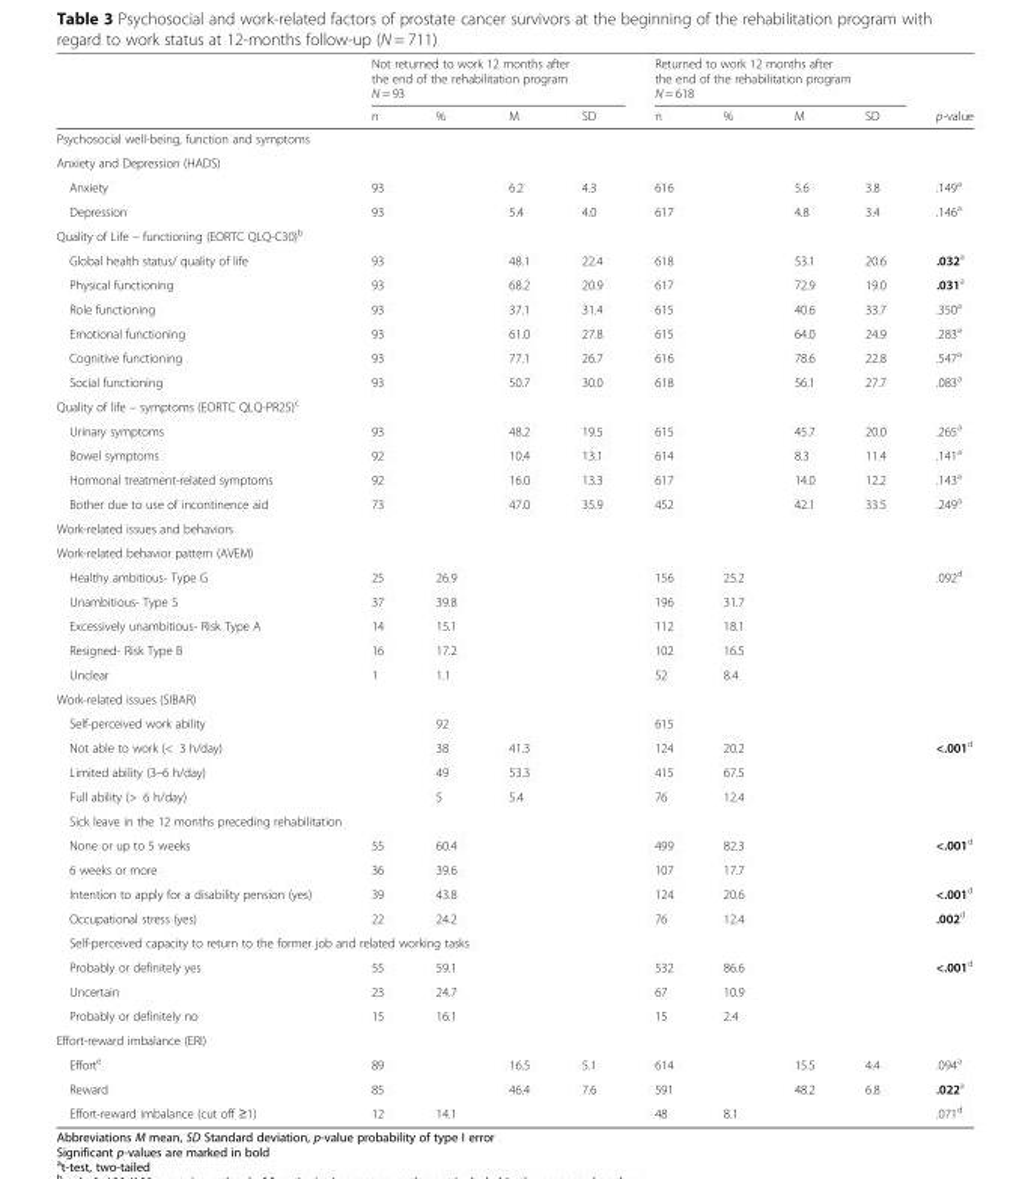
<table><thead><tr><td rowspan="3"></td><td rowspan="2" colspan="4">Not returned to work 12 months after the end of the rehabilitation program N = 93</td><td rowspan="2" colspan="4">Returned to work 12 months after the end of the rehabilitation program N = 618</td><td rowspan="3">p-value</td></tr><tr></tr><tr><td>n</td><td>%</td><td>M</td><td>SD</td><td>n</td><td>%</td><td>M</td><td>SD</td></tr></thead><tbody><tr><td colspan="10">Psychosocial well-being, function and symptoms</td></tr><tr><td colspan="10">Anxiety and Depression (HADS)</td></tr><tr><td>Anxiety</td><td>93</td><td></td><td>6.2</td><td>4.3</td><td>616</td><td></td><td>5.6</td><td>3.8</td><td>.149<sup>a</sup></td></tr><tr><td>Depression</td><td>93</td><td></td><td>5.4</td><td>4.0</td><td>617</td><td></td><td>4.8</td><td>3.4</td><td>.146<sup>a</sup></td></tr><tr><td colspan="10">Quality of Life – functioning (EORTC QLQ-C30)<sup>b</sup></td></tr><tr><td>Global health status/ quality of life</td><td>93</td><td></td><td>48.1</td><td>22.4</td><td>618</td><td></td><td>53.1</td><td>20.6</td><td>.032<sup>a</sup></td></tr><tr><td>Physical functioning</td><td>93</td><td></td><td>68.2</td><td>20.9</td><td>617</td><td></td><td>72.9</td><td>19.0</td><td>.031<sup>a</sup></td></tr><tr><td>Role functioning</td><td>93</td><td></td><td>37.1</td><td>31.4</td><td>615</td><td></td><td>40.6</td><td>33.7</td><td>.350<sup>a</sup></td></tr><tr><td>Emotional functioning</td><td>93</td><td></td><td>61.0</td><td>27.8</td><td>615</td><td></td><td>64.0</td><td>24.9</td><td>.283<sup>a</sup></td></tr><tr><td>Cognitive functioning</td><td>93</td><td></td><td>77.1</td><td>26.7</td><td>616</td><td></td><td>78.6</td><td>22.8</td><td>.547<sup>a</sup></td></tr><tr><td>Social functioning</td><td>93</td><td></td><td>50.7</td><td>30.0</td><td>618</td><td></td><td>56.1</td><td>27.7</td><td>.083<sup>a</sup></td></tr><tr><td colspan="10">Quality of life – symptoms (EORTC QLQ-PR25)<sup>c</sup></td></tr><tr><td>Urinary symptoms</td><td>93</td><td></td><td>48.2</td><td>19.5</td><td>615</td><td></td><td>45.7</td><td>20.0</td><td>.265<sup>a</sup></td></tr><tr><td>Bowel symptoms</td><td>92</td><td></td><td>10.4</td><td>13.1</td><td>614</td><td></td><td>8.3</td><td>11.4</td><td>.141<sup>a</sup></td></tr><tr><td>Hormonal treatment-related symptoms</td><td>92</td><td></td><td>16.0</td><td>13.3</td><td>617</td><td></td><td>14.0</td><td>12.2</td><td>.143<sup>a</sup></td></tr><tr><td>Bother due to use of incontinence aid</td><td>73</td><td></td><td>47.0</td><td>35.9</td><td>452</td><td></td><td>42.1</td><td>33.5</td><td>.249<sup>a</sup></td></tr><tr><td colspan="10">Work-related issues and behaviors</td></tr><tr><td colspan="10">Work-related behavior pattern (AVEM)</td></tr><tr><td>Healthy ambitious- Type G</td><td>25</td><td>26.9</td><td></td><td></td><td>156</td><td>25.2</td><td></td><td></td><td rowspan="5">.092<sup>d</sup></td></tr><tr><td>Unambitious- Type S</td><td>37</td><td>39.8</td><td></td><td></td><td>196</td><td>31.7</td><td></td><td></td></tr><tr><td>Excessively unambitious- Risk Type A</td><td>14</td><td>15.1</td><td></td><td></td><td>112</td><td>18.1</td><td></td><td></td></tr><tr><td>Resigned- Risk Type B</td><td>16</td><td>17.2</td><td></td><td></td><td>102</td><td>16.5</td><td></td><td></td></tr><tr><td>Unclear</td><td>1</td><td>1.1</td><td></td><td></td><td>52</td><td>8.4</td><td></td><td></td></tr><tr><td colspan="10">Work-related issues (SIBAR)</td></tr><tr><td>Self-perceived work ability</td><td></td><td>92</td><td></td><td></td><td>615</td><td></td><td></td><td></td><td></td></tr><tr><td>Not able to work (&lt; 3 h/day)</td><td></td><td>38</td><td>41.3</td><td></td><td>124</td><td>20.2</td><td></td><td></td><td rowspan="3">&lt;.001<sup>d</sup></td></tr><tr><td>Limited ability (3–6 h/day)</td><td></td><td>49</td><td>53.3</td><td></td><td>415</td><td>67.5</td><td></td><td></td></tr><tr><td>Full ability (&gt; 6 h/day)</td><td></td><td>5</td><td>5.4</td><td></td><td>76</td><td>12.4</td><td></td><td></td></tr><tr><td colspan="10">Sick leave in the 12 months preceding rehabilitation</td></tr><tr><td>None or up to 5 weeks</td><td>55</td><td>60.4</td><td></td><td></td><td>499</td><td>82.3</td><td></td><td></td><td rowspan="2">&lt;.001<sup>d</sup></td></tr><tr><td>6 weeks or more</td><td>36</td><td>39.6</td><td></td><td></td><td>107</td><td>17.7</td><td></td><td></td></tr><tr><td>Intention to apply for a disability pension (yes)</td><td>39</td><td>43.8</td><td></td><td></td><td>124</td><td>20.6</td><td></td><td></td><td>&lt;.001<sup>d</sup></td></tr><tr><td>Occupational stress (yes)</td><td>22</td><td>24.2</td><td></td><td></td><td>76</td><td>12.4</td><td></td><td></td><td>.002<sup>d</sup></td></tr><tr><td colspan="10">Self-perceived capacity to return to the former job and related working tasks</td></tr><tr><td>Probably or definitely yes</td><td>55</td><td>59.1</td><td></td><td></td><td>532</td><td>86.6</td><td></td><td></td><td rowspan="3">&lt;.001<sup>d</sup></td></tr><tr><td>Uncertain</td><td>23</td><td>24.7</td><td></td><td></td><td>67</td><td>10.9</td><td></td><td></td></tr><tr><td>Probably or definitely no</td><td>15</td><td>16.1</td><td></td><td></td><td>15</td><td>2.4</td><td></td><td></td></tr><tr><td colspan="10">Effort-reward imbalance (ERI)</td></tr><tr><td>Effort<sup>e</sup></td><td>89</td><td></td><td>16.5</td><td>5.1</td><td>614</td><td></td><td>15.5</td><td>4.4</td><td>.094<sup>a</sup></td></tr><tr><td>Reward</td><td>85</td><td></td><td>46.4</td><td>7.6</td><td>591</td><td></td><td>48.2</td><td>6.8</td><td>.022<sup>a</sup></td></tr><tr><td>Effort-reward imbalance (cut off ≥1)</td><td>12</td><td>14.1</td><td></td><td></td><td>48</td><td>8.1</td><td></td><td></td><td>.071<sup>d</sup></td></tr></tbody></table>